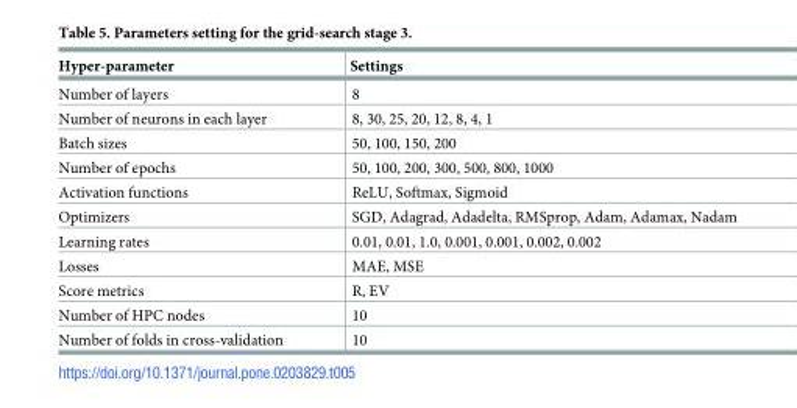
<table><thead><tr><td>Hyper-parameter</td><td>Settings</td></tr></thead><tbody><tr><td>Number of layers</td><td>8</td></tr><tr><td>Number of neurons in each layer</td><td>8, 30, 25, 20, 12, 8, 4, 1</td></tr><tr><td>Batch sizes</td><td>50, 100, 150, 200</td></tr><tr><td>Number of epochs</td><td>50, 100, 200, 300, 500, 800, 1000</td></tr><tr><td>Activation functions</td><td>ReLU, Softmax, Sigmoid</td></tr><tr><td>Optimizers</td><td>SGD, Adagrad, Adadelta, RMSprop, Adam, Adamax, Nadam</td></tr><tr><td>Learning rates</td><td>0.01, 0.01, 1.0, 0.001, 0.001, 0.002, 0.002</td></tr><tr><td>Losses</td><td>MAE, MSE</td></tr><tr><td>Score metrics</td><td>R, EV</td></tr><tr><td>Number of HPC nodes</td><td>10</td></tr><tr><td>Number of folds in cross-validation</td><td>10</td></tr></tbody></table>